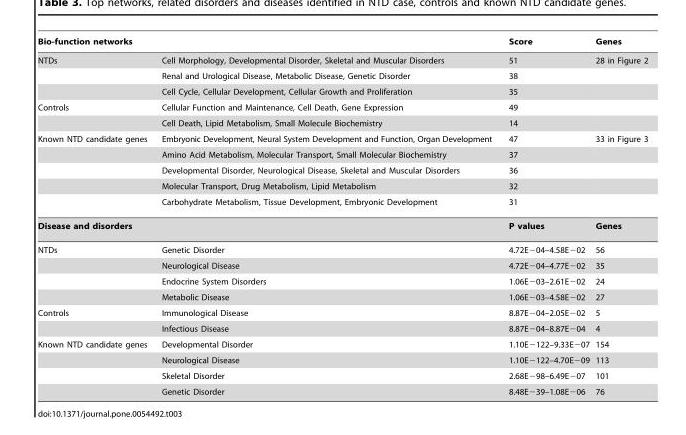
<table><thead><tr><td>Bio-function networks</td><td></td><td>Score</td><td>Genes</td></tr></thead><tbody><tr><td rowspan="3">NTDs</td><td>Cell Morphology, Developmental Disorder, Skeletal and Muscular Disorders</td><td>51</td><td>28 in Figure 2</td></tr><tr><td>Renal and Urological Disease, Metabolic Disease, Genetic Disorder</td><td>38</td><td></td></tr><tr><td>Cell Cycle, Cellular Development, Cellular Growth and Proliferation</td><td>35</td><td></td></tr><tr><td rowspan="2">Controls</td><td>Cellular Function and Maintenance, Cell Death, Gene Expression</td><td>49</td><td></td></tr><tr><td>Cell Death, Lipid Metabolism, Small Molecule Biochemistry</td><td>14</td><td></td></tr><tr><td rowspan="5">Known NTD candidate genes</td><td>Embryonic Development, Neural System Development and Function, Organ Development</td><td>47</td><td>33 in Figure 3</td></tr><tr><td>Amino Acid Metabolism, Molecular Transport, Small Molecular Biochemistry</td><td>37</td><td></td></tr><tr><td>Developmental Disorder, Neurological Disease, Skeletal and Muscular Disorders</td><td>36</td><td></td></tr><tr><td>Molecular Transport, Drug Metabolism, Lipid Metabolism</td><td>32</td><td></td></tr><tr><td>Carbohydrate Metabolism, Tissue Development, Embryonic Development</td><td>31</td><td></td></tr><tr><td>Disease and disorders</td><td></td><td>P values</td><td>Genes</td></tr><tr><td rowspan="4">NTDs</td><td>Genetic Disorder</td><td>4.72E−04–4.58E−02</td><td>56</td></tr><tr><td>Neurological Disease</td><td>4.72E−04–4.77E−02</td><td>35</td></tr><tr><td>Endocrine System Disorders</td><td>1.06E−03–2.61E−02</td><td>24</td></tr><tr><td>Metabolic Disease</td><td>1.06E−03–4.58E−02</td><td>27</td></tr><tr><td rowspan="2">Controls</td><td>Immunological Disease</td><td>8.87E−04–2.05E−02</td><td>5</td></tr><tr><td>Infectious Disease</td><td>8.87E−04–8.87E−04</td><td>4</td></tr><tr><td rowspan="4">Known NTD candidate genes</td><td>Developmental Disorder</td><td>1.10E−122–9.33E−07</td><td>154</td></tr><tr><td>Neurological Disease</td><td>1.10E−122–4.70E−09</td><td>113</td></tr><tr><td>Skeletal Disorder</td><td>2.68E−98–6.49E−07</td><td>101</td></tr><tr><td>Genetic Disorder</td><td>8.48E−39–1.08E−06</td><td>76</td></tr></tbody></table>